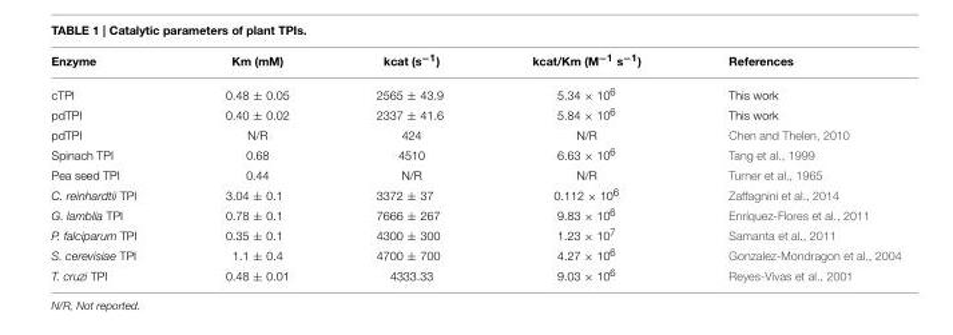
<table><thead><tr><td>Enzyme</td><td>Km (mM)</td><td>kcat (s<sup>−1</sup>)</td><td>kcat/Km (M<sup>−1</sup> s<sup>−1</sup>)</td><td>References</td></tr></thead><tbody><tr><td>cTPI</td><td>0.48 ± 0.05</td><td>2565 ± 43.9</td><td>5.34 × 10<sup>6</sup></td><td>This work</td></tr><tr><td>pdTPI</td><td>0.40 ± 0.02</td><td>2337 ± 41.6</td><td>5.84 × 10<sup>6</sup></td><td>This work</td></tr><tr><td>pdTPI</td><td>N/R</td><td>424</td><td>N/R</td><td>Chen and Thelen, 2010</td></tr><tr><td>Spinach TPI</td><td>0.68</td><td>4510</td><td>6.63 × 10<sup>6</sup></td><td>Tang et al., 1999</td></tr><tr><td>Pea seed TPI</td><td>0.44</td><td>N/R</td><td>N/R</td><td>Turner et al., 1965</td></tr><tr><td>C. reinhardtii TPI</td><td>3.04 ± 0.1</td><td>3372 ± 37</td><td>0.112 × 10<sup>6</sup></td><td>Zaffagnini et al., 2014</td></tr><tr><td>G. lamblia TPI</td><td>0.78 ± 0.1</td><td>7666 ± 267</td><td>9.83 × 10<sup>6</sup></td><td>Enríquez-Flores et al., 2011</td></tr><tr><td>P. falciparum TPI</td><td>0.35 ± 0.1</td><td>4300 ± 300</td><td>1.23 × 10<sup>7</sup></td><td>Samanta et al., 2011</td></tr><tr><td>S. cerevisiae TPI</td><td>1.1 ± 0.4</td><td>4700 ± 700</td><td>4.27 × 10<sup>6</sup></td><td>Gonzalez-Mondragon et al., 2004</td></tr><tr><td>T. cruzi TPI</td><td>0.48 ± 0.01</td><td>4333.33</td><td>9.03 × 10<sup>6</sup></td><td>Reyes-Vivas et al., 2001</td></tr></tbody></table>